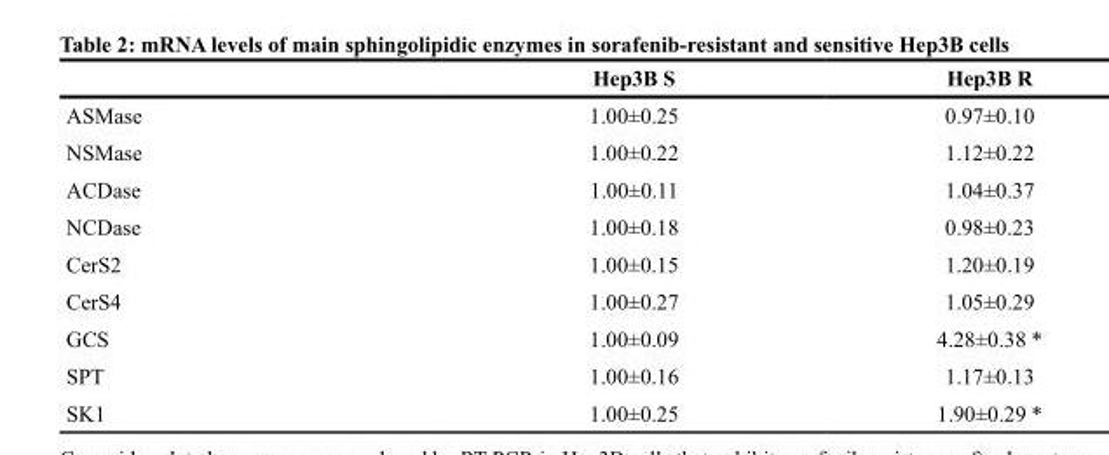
<table><thead><tr><td></td><td>Hep3B S</td><td>Hep3B R</td></tr></thead><tbody><tr><td>ASMase</td><td>1.00±0.25</td><td>0.97±0.10</td></tr><tr><td>NSMase</td><td>1.00±0.22</td><td>1.12±0.22</td></tr><tr><td>ACDase</td><td>1.00±0.11</td><td>1.04±0.37</td></tr><tr><td>NCDase</td><td>1.00±0.18</td><td>0.98±0.23</td></tr><tr><td>CerS2</td><td>1.00±0.15</td><td>1.20±0.19</td></tr><tr><td>CerS4</td><td>1.00±0.27</td><td>1.05±0.29</td></tr><tr><td>GCS</td><td>1.00±0.09</td><td>4.28±0.38 *</td></tr><tr><td>SPT</td><td>1.00±0.16</td><td>1.17±0.13</td></tr></tbody></table>